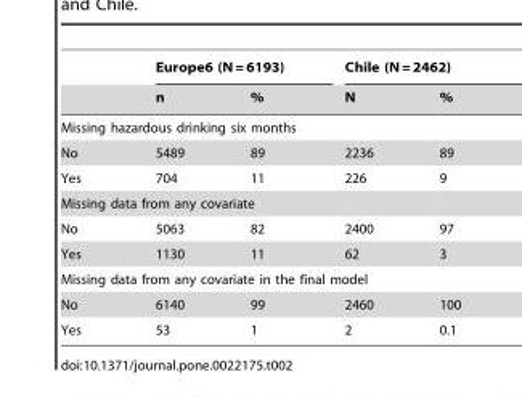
<table><thead><tr><td rowspan="2"></td><td colspan="2">Europe6 (N = 6193)</td><td colspan="2">Chile (N = 2462)</td></tr><tr><td>n</td><td>%</td><td>N</td><td>%</td></tr></thead><tbody><tr><td colspan="5">Missing hazardous drinking six months</td></tr><tr><td>No</td><td>5489</td><td>89</td><td>2236</td><td>89</td></tr><tr><td>Yes</td><td>704</td><td>11</td><td>226</td><td>9</td></tr><tr><td colspan="5">Missing data from any covariate</td></tr><tr><td>No</td><td>5063</td><td>82</td><td>2400</td><td>97</td></tr><tr><td>Yes</td><td>1130</td><td>11</td><td>62</td><td>3</td></tr><tr><td colspan="5">Missing data from any covariate in the final model</td></tr><tr><td>No</td><td>6140</td><td>99</td><td>2460</td><td>100</td></tr><tr><td>Yes</td><td>53</td><td>1</td><td>2</td><td>0.1</td></tr></tbody></table>